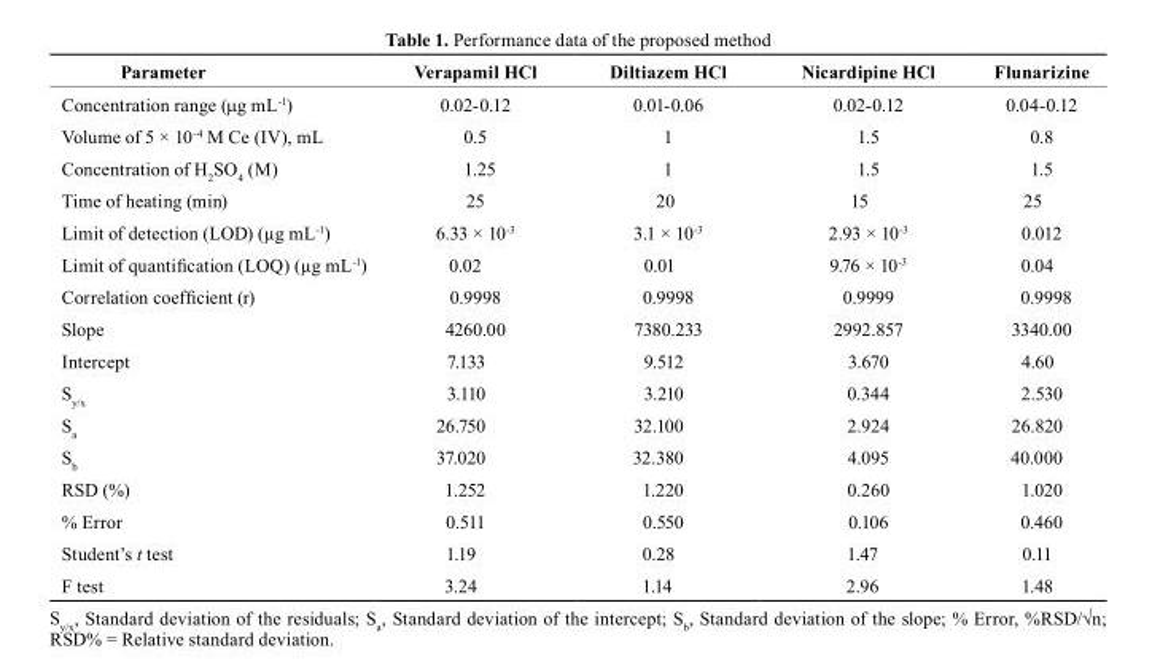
<table><thead><tr><td>Parameter</td><td>Verapamil HCl</td><td>diltiazem HCl</td><td>nicardipine HCl</td><td>Flunarizine</td></tr></thead><tbody><tr><td>Concentration range (µg mL<sup>-1</sup>)</td><td>0.02-0.12</td><td>0.01-0.06</td><td>0.02-0.12</td><td>0.04-0.12</td></tr><tr><td>Volume of 5 × 10<sup>-4</sup> M Ce (IV), mL</td><td>0.5</td><td>1</td><td>1.5</td><td>0.8</td></tr><tr><td>Concentration of H<sub>2</sub>SO<sub>4</sub> (M)</td><td>1.25</td><td>1</td><td>1.5</td><td>1.5</td></tr><tr><td>Time of heating (min)</td><td>25</td><td>20</td><td>15</td><td>25</td></tr><tr><td>Limit of detection (LOD) (µg mL<sup>-1</sup>)</td><td>6.33 × 10<sup>-3</sup></td><td>3.1 × 10<sup>-3</sup></td><td>2.93 × 10<sup>-3</sup></td><td>0.012</td></tr><tr><td>Limit of quantification (LOQ) (µg mL<sup>-1</sup>)</td><td>0.02</td><td>0.01</td><td>9.76 × 10<sup>-3</sup></td><td>0.04</td></tr><tr><td>Correlation coefficient (r)</td><td>0.9998</td><td>0.9998</td><td>0.9999</td><td>0.9998</td></tr><tr><td>Slope</td><td>4260.00</td><td>7380.233</td><td>2992.857</td><td>3340.00</td></tr><tr><td>Intercept</td><td>7.133</td><td>9.512</td><td>3.670</td><td>4.60</td></tr><tr><td>S<sub>y/x</sub></td><td>3.110</td><td>3.210</td><td>0.344</td><td>2.530</td></tr><tr><td>S<sub>a</sub></td><td>26.750</td><td>32.100</td><td>2.924</td><td>26.820</td></tr><tr><td>S<sub>b</sub></td><td>37.020</td><td>32.380</td><td>4.095</td><td>40.000</td></tr><tr><td>RSD (%)</td><td>1.252</td><td>1.220</td><td>0.260</td><td>1.020</td></tr><tr><td>% Error</td><td>0.511</td><td>0.550</td><td>0.106</td><td>0.460</td></tr><tr><td>Student’s t test</td><td>1.19</td><td>0.28</td><td>1.47</td><td>0.11</td></tr><tr><td>F test</td><td>3.24</td><td>1.14</td><td>2.96</td><td>1.48</td></tr></tbody></table>